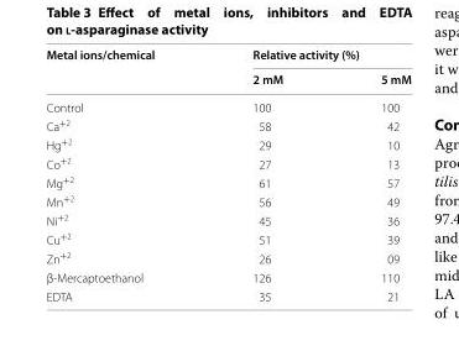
<table><thead><tr><td rowspan="2">Metal ions/chemical</td><td colspan="2">Relative activity (%)</td></tr><tr><td>2 mM</td><td>5 mM</td></tr></thead><tbody><tr><td>Control</td><td>100</td><td>100</td></tr><tr><td>Ca<sup>+2</sup></td><td>58</td><td>42</td></tr><tr><td>Hg<sup>+2</sup></td><td>29</td><td>10</td></tr><tr><td>Co<sup>+2</sup></td><td>27</td><td>13</td></tr><tr><td>Mg<sup>+2</sup></td><td>61</td><td>57</td></tr><tr><td>Mn<sup>+2</sup></td><td>56</td><td>49</td></tr><tr><td>Ni<sup>+2</sup></td><td>45</td><td>36</td></tr><tr><td>Cu<sup>+2</sup></td><td>51</td><td>39</td></tr><tr><td>Zn<sup>+2</sup></td><td>26</td><td>09</td></tr><tr><td>β-Mercaptoethanol</td><td>126</td><td>110</td></tr><tr><td>EDTA</td><td>35</td><td>21</td></tr></tbody></table>